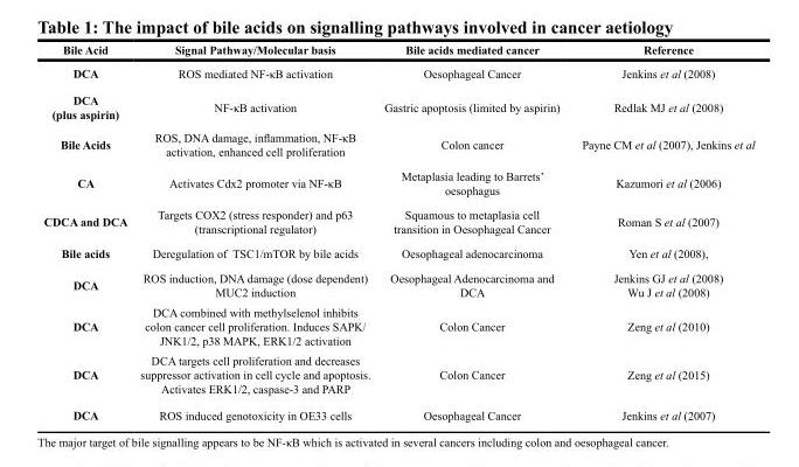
<table><thead><tr><td>Bile Acid</td><td>Signal Pathway/Molecular basis</td><td>Bile acids mediated cancer</td><td>Reference</td></tr></thead><tbody><tr><td>DCA</td><td>ROS mediated NF-κB activation</td><td>Oesophageal Cancer</td><td>Jenkins et al (2008)</td></tr><tr><td>DCA (plus aspirin)</td><td>NF-κB activation</td><td>Gastric apoptosis (limited by aspirin)</td><td>Redlak MJ et al (2008)</td></tr><tr><td>Bile Acids</td><td>ROS, DNA damage, inflammation, NF-κB activation, enhanced cell proliferation</td><td>Colon cancer</td><td>Payne CM et al (2007), Jenkins et al</td></tr><tr><td>CA</td><td>Activates Cdx2 promoter via NF-κB</td><td>Metaplasia leading to Barrets’ oesophagus</td><td>Kazumori et al (2006)</td></tr><tr><td>CDCA and DCA</td><td>Targets COX2 (stress responder) and p63 (transcriptional regulator)</td><td>Squamous to metaplasia cell transition in Oesophageal Cancer</td><td>Roman S et al (2007)</td></tr><tr><td>Bile acids</td><td>Deregulation of TSC1/mTOR by bile acids</td><td>Oesophageal adenocarcinoma</td><td>Yen et al (2008),</td></tr><tr><td>DCA</td><td>ROS induction, DNA damage (dose dependent) MUC2 induction</td><td>Oesophageal Adenocarcinoma and DCA</td><td>Jenkins GJ et al (2008) Wu J et al (2008)</td></tr><tr><td>DCA</td><td>DCA combined with methylselenol inhibits colon cancer cell proliferation. Induces SAPK/ JNK1/2, p38 MAPK, ERK1/2 activation</td><td>Colon Cancer</td><td>Zeng et al (2010)</td></tr><tr><td>DCA</td><td>DCA targets cell proliferation and decreases suppressor activation in cell cycle and apoptosis. Activates ERK1/2, caspase-3 and PARP</td><td>Colon Cancer</td><td>Zeng et al (2015)</td></tr><tr><td>DCA</td><td>ROS induced genotoxicity in OE33 cells</td><td>Oesophageal Cancer</td><td>Jenkins et al (2007)</td></tr></tbody></table>